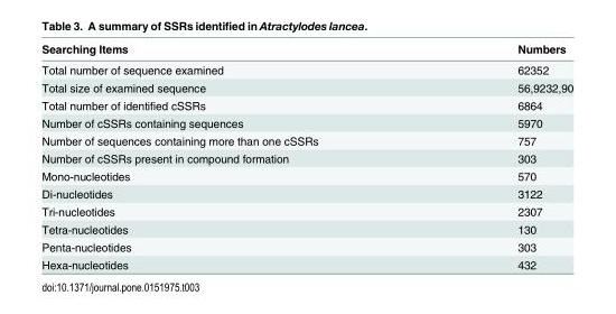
<table><thead><tr><td>Searching Items</td><td>Numbers</td></tr></thead><tbody><tr><td>Total number of sequence examined</td><td>62352</td></tr><tr><td>Total size of examined sequence</td><td>56,9232,90</td></tr><tr><td>Total number of identified cSSRs</td><td>6864</td></tr><tr><td>Number of cSSRs containing sequences</td><td>5970</td></tr><tr><td>Number of sequences containing more than one cSSRs</td><td>757</td></tr><tr><td>Number of cSSRs present in compound formation</td><td>303</td></tr><tr><td>Mono-nucleotides</td><td>570</td></tr><tr><td>Di-nucleotides</td><td>3122</td></tr><tr><td>Tri-nucleotides</td><td>2307</td></tr><tr><td>Tetra-nucleotides</td><td>130</td></tr><tr><td>Penta-nucleotides</td><td>303</td></tr><tr><td>Hexa-nucleotides</td><td>432</td></tr></tbody></table>